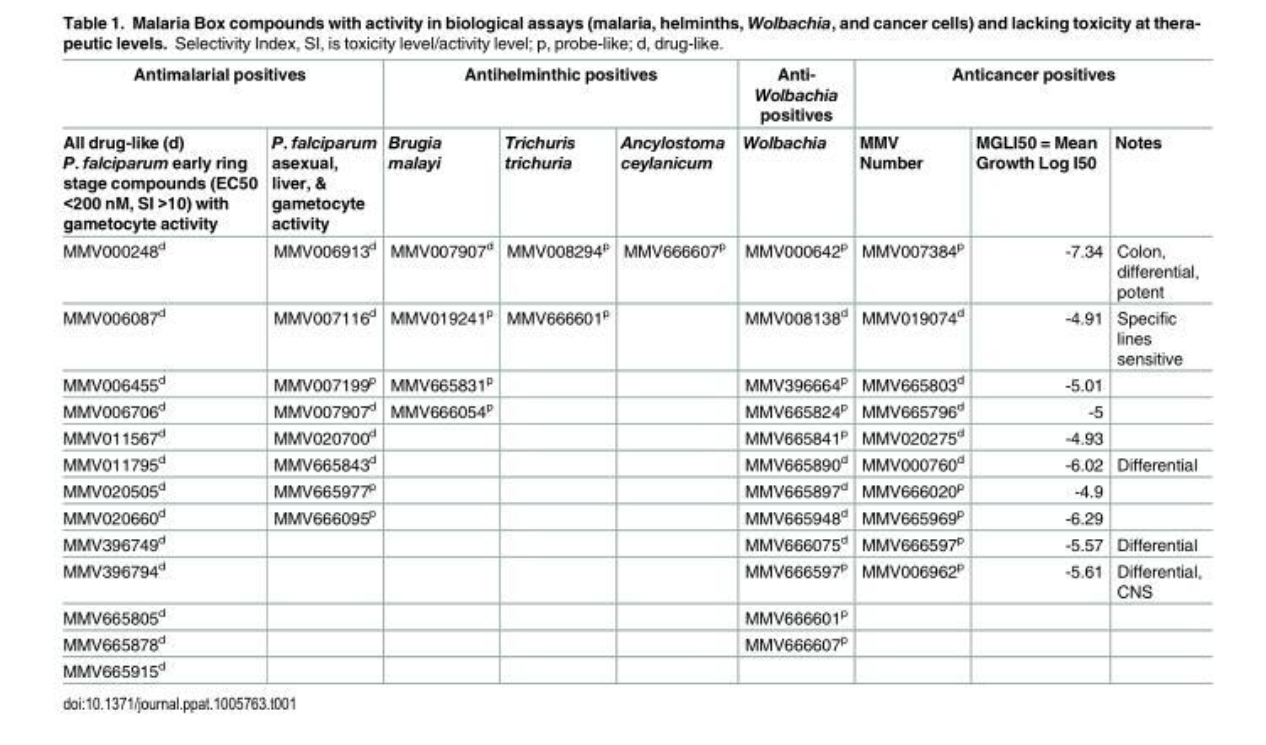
<table><thead><tr><td colspan="2">Antimalarial positives</td><td colspan="3">Antihelminthic positives</td><td rowspan="2">Anti- Wolbachia positives Wolbachia</td><td colspan="3">Anticancer positives</td></tr><tr><td>All drug-like (d) P. falciparum early ring stage compounds (EC50 &lt;200 nM, SI &gt;10) with gametocyte activity</td><td>P. falciparum asexual, liver, &amp; gametocyte activity</td><td>Brugia malayi</td><td>Trichuris trichuria</td><td>Ancylostoma ceylanicum</td><td>MMV Number</td><td>MGLI50 = Mean Growth Log I50</td><td>Notes</td></tr></thead><tbody><tr><td>MMV000248<sup>d</sup></td><td>MMV006913<sup>d</sup></td><td>MMV007907<sup>d</sup></td><td>MMV008294<sup>p</sup></td><td>MMV666607<sup>p</sup></td><td>MMV000642<sup>p</sup></td><td>MMV007384<sup>p</sup></td><td>-7.34</td><td>Colon, differential, potent</td></tr><tr><td>MMV006087<sup>d</sup></td><td>MMV007116<sup>d</sup></td><td>MMV019241<sup>p</sup></td><td>MMV666601<sup>p</sup></td><td></td><td>MMV008138<sup>d</sup></td><td>MMV019074<sup>d</sup></td><td>-4.91</td><td>Specific lines sensitive</td></tr><tr><td>MMV006455<sup>d</sup></td><td>MMV007199<sup>p</sup></td><td>MMV665831<sup>p</sup></td><td></td><td></td><td>MMV396664<sup>p</sup></td><td>MMV665803<sup>d</sup></td><td>-5.01</td><td></td></tr><tr><td>MMV006706<sup>d</sup></td><td>MMV007907<sup>d</sup></td><td>MMV666054<sup>p</sup></td><td></td><td></td><td>MMV665824<sup>p</sup></td><td>MMV665796<sup>d</sup></td><td>-5</td><td></td></tr><tr><td>MMV011567<sup>d</sup></td><td>MMV020700<sup>d</sup></td><td></td><td></td><td></td><td>MMV665841<sup>p</sup></td><td>MMV020275<sup>d</sup></td><td>-4.93</td><td></td></tr><tr><td>MMV011795<sup>d</sup></td><td>MMV665843<sup>d</sup></td><td></td><td></td><td></td><td>MMV665890<sup>d</sup></td><td>MMV000760<sup>d</sup></td><td>-6.02</td><td>Differential</td></tr><tr><td>MMV020505<sup>d</sup></td><td>MMV665977<sup>p</sup></td><td></td><td></td><td></td><td>MMV665897<sup>d</sup></td><td>MMV666020<sup>p</sup></td><td>-4.9</td><td></td></tr><tr><td>MMV020660<sup>d</sup></td><td>MMV666095<sup>p</sup></td><td></td><td></td><td></td><td>MMV665948<sup>d</sup></td><td>MMV665969<sup>p</sup></td><td>-6.29</td><td></td></tr><tr><td>MMV396749<sup>d</sup></td><td></td><td></td><td></td><td></td><td>MMV666075<sup>d</sup></td><td>MMV666597<sup>p</sup></td><td>-5.57</td><td>Differential</td></tr><tr><td>MMV396794<sup>d</sup></td><td></td><td></td><td></td><td></td><td>MMV666597<sup>p</sup></td><td>MMV006962<sup>p</sup></td><td>-5.61</td><td>Differential, CNS</td></tr><tr><td>MMV665805<sup>d</sup></td><td></td><td></td><td></td><td></td><td>MMV666601<sup>p</sup></td><td></td><td></td><td></td></tr><tr><td>MMV665878<sup>d</sup></td><td></td><td></td><td></td><td></td><td>MMV666607<sup>p</sup></td><td></td><td></td><td></td></tr><tr><td>MMV665915<sup>d</sup></td><td></td><td></td><td></td><td></td><td></td><td></td><td></td><td></td></tr></tbody></table>